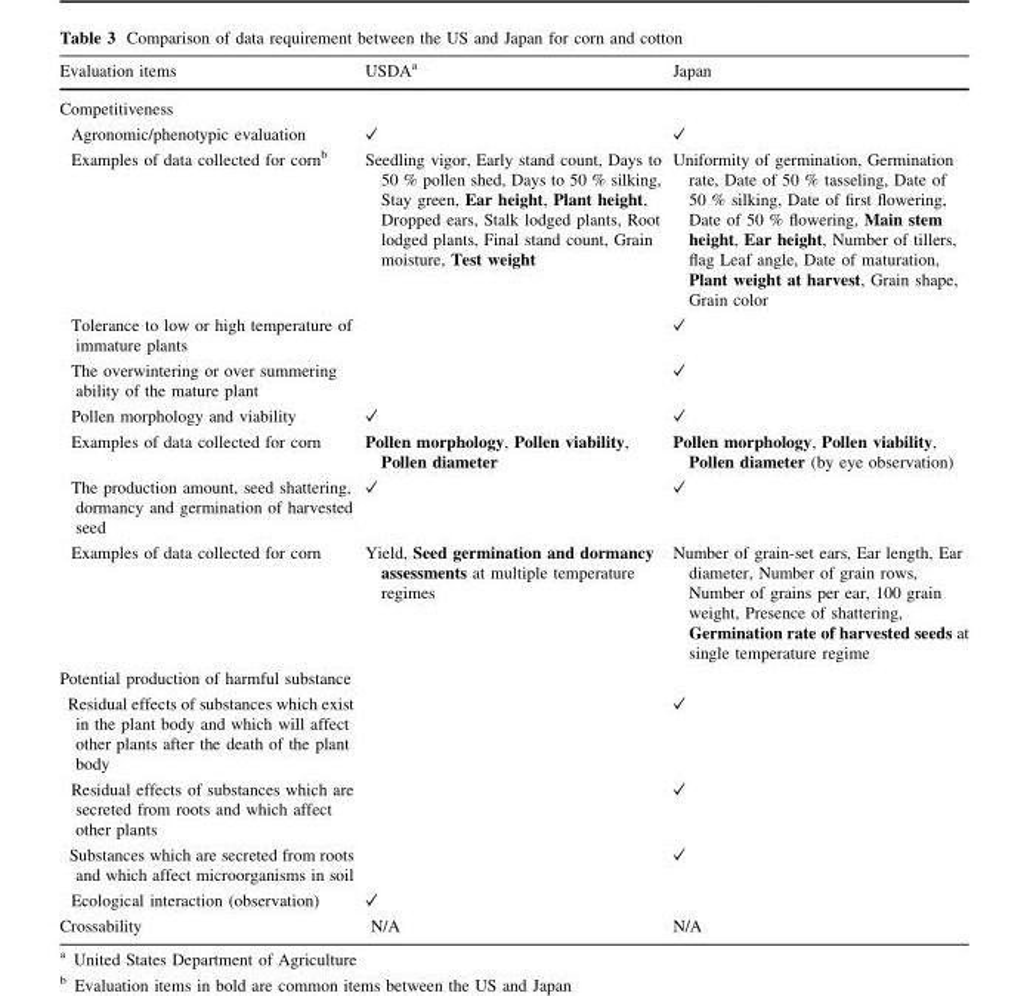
<table><thead><tr><td>Evaluation items</td><td>USDA<sup>a</sup></td><td>Japan</td></tr></thead><tbody><tr><td colspan="3">Competitiveness</td></tr><tr><td>Agronomic/phenotypic evaluation</td><td>✓</td><td>✓</td></tr><tr><td>Examples of data collected for corn<sup>b</sup></td><td>Seedling vigor, Early stand count, Days to 50 % pollen shed, Days to 50 % silking, Stay green, Ear height, Plant height, Dropped ears, Stalk lodged plants, Root lodged plants, Final stand count, Grain moisture, Test weight</td><td>Uniformity of germination, Germination rate, Date of 50 % tasseling, Date of 50 % silking, Date of first flowering, Date of 50 % flowering, Main stem height, Ear height, Number of tillers, flag Leaf angle, Date of maturation, Plant weight at harvest, Grain shape, Grain color</td></tr><tr><td>Tolerance to low or high temperature of immature plants</td><td></td><td>✓</td></tr><tr><td>The overwintering or over summering ability of the mature plant</td><td></td><td>✓</td></tr><tr><td>Pollen morphology and viability</td><td>✓</td><td>✓</td></tr><tr><td>Examples of data collected for corn</td><td>Pollen morphology, Pollen viability, Pollen diameter</td><td>Pollen morphology, Pollen viability, Pollen diameter (by eye observation)</td></tr><tr><td>The production amount, seed shattering, dormancy and germination of harvested seed</td><td>✓</td><td>✓</td></tr><tr><td>Examples of data collected for corn</td><td>Yield, Seed germination and dormancy assessments at multiple temperature regimes</td><td>Number of grain-set ears, Ear length, Ear diameter, Number of grain rows, Number of grains per ear, 100 grain weight, Presence of shattering, Germination rate of harvested seeds at single temperature regime</td></tr><tr><td colspan="3">Potential production of harmful substance</td></tr><tr><td>Residual effects of substances which exist in the plant body and which will affect other plants after the death of the plant body</td><td></td><td>✓</td></tr><tr><td>Residual effects of substances which are secreted from roots and which affect other plants</td><td></td><td>✓</td></tr><tr><td>Substances which are secreted from roots and which affect microorganisms in soil</td><td></td><td>✓</td></tr><tr><td>Ecological interaction (observation)</td><td>✓</td><td></td></tr><tr><td>Crossability</td><td>N/A</td><td>N/A</td></tr></tbody></table>